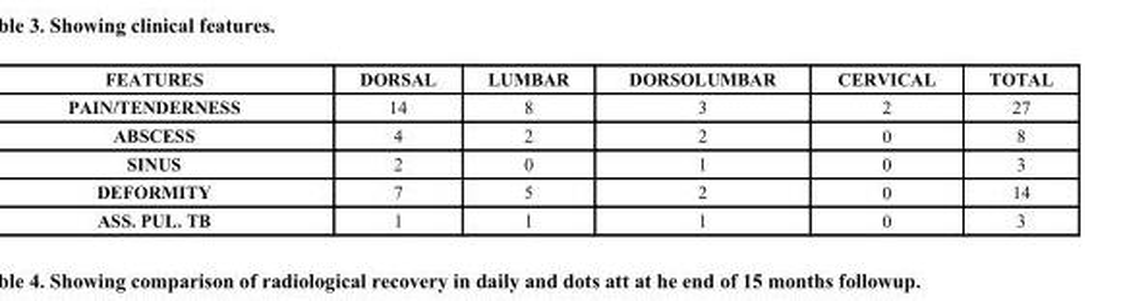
<table><thead><tr><td>FEATURES</td><td>DORSAL</td><td>LUMBAR</td><td>DORSOLUMBAR</td><td>CERVICAL</td><td>TOTAL</td></tr></thead><tbody><tr><td>PAIN/TENDERNESS</td><td>14</td><td>8</td><td>3</td><td>2</td><td>27</td></tr><tr><td>ABSCESS</td><td>4</td><td>2</td><td>2</td><td>0</td><td>8</td></tr><tr><td>SINUS</td><td>2</td><td>0</td><td>1</td><td>0</td><td>3</td></tr><tr><td>DEFORMITY</td><td>7</td><td>5</td><td>2</td><td>0</td><td>14</td></tr><tr><td>ASS. PUL. TB</td><td>1</td><td>1</td><td>1</td><td>0</td><td>3</td></tr></tbody></table>